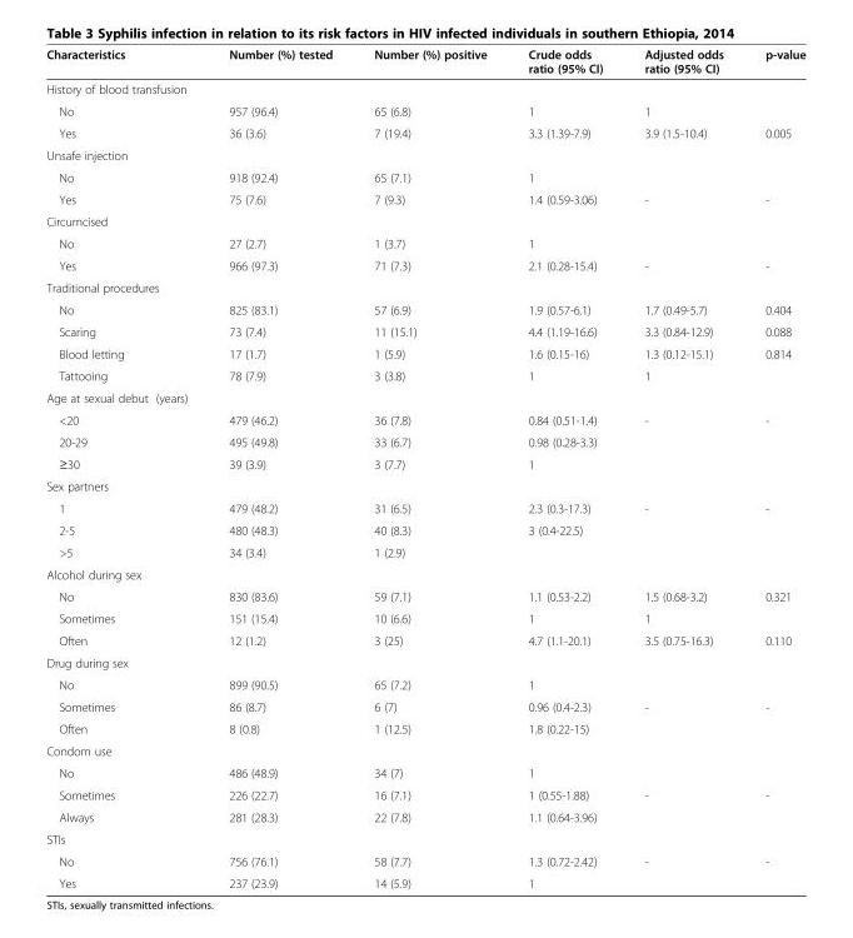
<table><thead><tr><td>Characteristics</td><td>Number (%) tested</td><td>Number (%) positive</td><td>Crude odds ratio (95% CI)</td><td>Adjusted odds ratio (95% CI)</td><td>p-value</td></tr></thead><tbody><tr><td colspan="6">History of blood transfusion</td></tr><tr><td>No</td><td>957 (96.4)</td><td>65 (6.8)</td><td>1</td><td>1</td><td></td></tr><tr><td>Yes</td><td>36 (3.6)</td><td>7 (19.4)</td><td>3.3 (1.39-7.9)</td><td>3.9 (1.5-10.4)</td><td>0.005</td></tr><tr><td colspan="6">Unsafe injection</td></tr><tr><td>No</td><td>918 (92.4)</td><td>65 (7.1)</td><td>1</td><td></td><td></td></tr><tr><td>Yes</td><td>75 (7.6)</td><td>7 (9.3)</td><td>1.4 (0.59-3.06)</td><td>-</td><td>-</td></tr><tr><td colspan="6">Circumcised</td></tr><tr><td>No</td><td>27 (2.7)</td><td>1 (3.7)</td><td>1</td><td></td><td></td></tr><tr><td>Yes</td><td>966 (97.3)</td><td>71 (7.3)</td><td>2.1 (0.28-15.4)</td><td>-</td><td>-</td></tr><tr><td colspan="6">Traditional procedures</td></tr><tr><td>No</td><td>825 (83.1)</td><td>57 (6.9)</td><td>1.9 (0.57-6.1)</td><td>1.7 (0.49-5.7)</td><td>0.404</td></tr><tr><td>Scaring</td><td>73 (7.4)</td><td>11 (15.1)</td><td>4.4 (1.19-16.6)</td><td>3.3 (0.84-12.9)</td><td>0.088</td></tr><tr><td>Blood letting</td><td>17 (1.7)</td><td>1 (5.9)</td><td>1.6 (0.15-16)</td><td>1.3 (0.12-15.1)</td><td>0.814</td></tr><tr><td>Tattooing</td><td>78 (7.9)</td><td>3 (3.8)</td><td>1</td><td>1</td><td></td></tr><tr><td colspan="6">Age at sexual debut (years)</td></tr><tr><td>&lt;20</td><td>479 (46.2)</td><td>36 (7.8)</td><td>0.84 (0.51-1.4)</td><td>-</td><td>-</td></tr><tr><td>20-29</td><td>495 (49.8)</td><td>33 (6.7)</td><td>0.98 (0.28-3.3)</td><td></td><td></td></tr><tr><td>≥30</td><td>39 (3.9)</td><td>3 (7.7)</td><td>1</td><td></td><td></td></tr><tr><td colspan="6">Sex partners</td></tr><tr><td>1</td><td>479 (48.2)</td><td>31 (6.5)</td><td>2.3 (0.3-17.3)</td><td>-</td><td>-</td></tr><tr><td>2-5</td><td>480 (48.3)</td><td>40 (8.3)</td><td>3 (0.4-22.5)</td><td></td><td></td></tr><tr><td>&gt;5</td><td>34 (3.4)</td><td>1 (2.9)</td><td></td><td></td><td></td></tr><tr><td colspan="6">Alcohol during sex</td></tr><tr><td>No</td><td>830 (83.6)</td><td>59 (7.1)</td><td>1.1 (0.53-2.2)</td><td>1.5 (0.68-3.2)</td><td>0.321</td></tr><tr><td>Sometimes</td><td>151 (15.4)</td><td>10 (6.6)</td><td>1</td><td>1</td><td></td></tr><tr><td>Often</td><td>12 (1.2)</td><td>3 (25)</td><td>4.7 (1.1-20.1)</td><td>3.5 (0.75-16.3)</td><td>0.110</td></tr><tr><td colspan="6">Drug during sex</td></tr><tr><td>No</td><td>899 (90.5)</td><td>65 (7.2)</td><td>1</td><td></td><td></td></tr><tr><td>Sometimes</td><td>86 (8.7)</td><td>6 (7)</td><td>0.96 (0.4-2.3)</td><td>-</td><td>-</td></tr><tr><td>Often</td><td>8 (0.8)</td><td>1 (12.5)</td><td>1.8 (0.22-15)</td><td></td><td></td></tr><tr><td colspan="6">Condom use</td></tr><tr><td>No</td><td>486 (48.9)</td><td>34 (7)</td><td>1</td><td></td><td></td></tr><tr><td>Sometimes</td><td>226 (22.7)</td><td>16 (7.1)</td><td>1 (0.55-1.88)</td><td>-</td><td>-</td></tr><tr><td>Always</td><td>281 (28.3)</td><td>22 (7.8)</td><td>1.1 (0.64-3.96)</td><td></td><td></td></tr><tr><td colspan="6">STIs</td></tr><tr><td>No</td><td>756 (76.1)</td><td>58 (7.7)</td><td>1.3 (0.72-2.42)</td><td>-</td><td>-</td></tr><tr><td>Yes</td><td>237 (23.9)</td><td>14 (5.9)</td><td>1</td><td></td><td></td></tr></tbody></table>